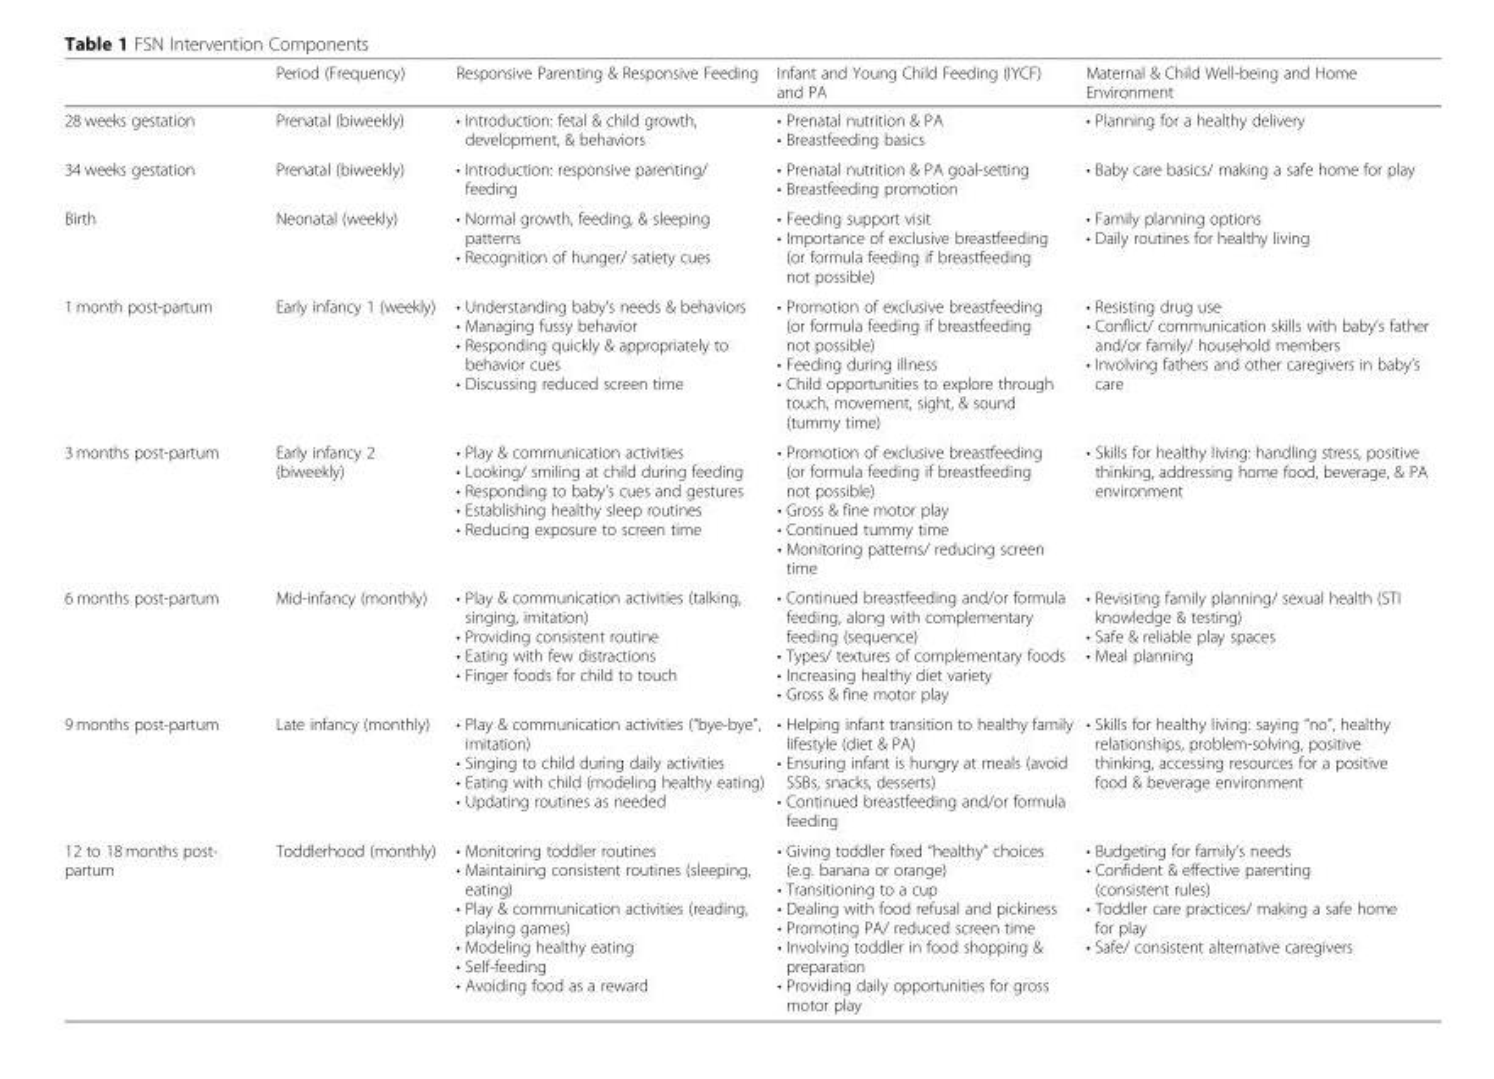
<table><thead><tr><td></td><td>Period (Frequency)</td><td>Responsive Parenting &amp; Responsive Feeding</td><td>Infant and Young Child Feeding (IYCF) and PA</td><td>Maternal &amp; Child Well-being and Home Environment</td></tr></thead><tbody><tr><td>28 weeks gestation</td><td>Prenatal (biweekly)</td><td>• Introduction: fetal &amp; child growth, development, &amp; behaviors</td><td>• Prenatal nutrition &amp; PA • Breastfeeding basics</td><td>• Planning for a healthy delivery</td></tr><tr><td>34 weeks gestation</td><td>Prenatal (biweekly)</td><td>• Introduction: responsive parenting/ feeding</td><td>• Prenatal nutrition &amp; PA goal-setting • Breastfeeding promotion</td><td>• Baby care basics/ making a safe home for play</td></tr><tr><td>Birth</td><td>Neonatal (weekly)</td><td>• Normal growth, feeding, &amp; sleeping patterns • Recognition of hunger/ satiety cues</td><td>• Feeding support visit • Importance of exclusive breastfeeding (or formula feeding if breastfeeding not possible)</td><td>• Family planning options • Daily routines for healthy living</td></tr><tr><td>1 month post-partum</td><td>Early infancy 1 (weekly)</td><td>• Understanding baby’s needs &amp; behaviors • Managing fussy behavior • Responding quickly &amp; appropriately to behavior cues • Discussing reduced screen time</td><td>• Promotion of exclusive breastfeeding (or formula feeding if breastfeeding not possible) • Feeding during illness • Child opportunities to explore through touch, movement, sight, &amp; sound (tummy time)</td><td>• Resisting drug use • Conflict/ communication skills with baby’s father and/or family/ household members • Involving fathers and other caregivers in baby’s care</td></tr><tr><td>3 months post-partum</td><td>Early infancy 2 (biweekly)</td><td>• Play &amp; communication activities • Looking/ smiling at child during feeding • Responding to baby’s cues and gestures • Establishing healthy sleep routines • Reducing exposure to screen time</td><td>• Promotion of exclusive breastfeeding (or formula feeding if breastfeeding not possible) • Gross &amp; fine motor play • Continued tummy time • Monitoring patterns/ reducing screen time</td><td>• Skills for healthy living: handling stress, positive thinking, addressing home food, beverage, &amp; PA environment</td></tr><tr><td>6 months post-partum</td><td>Mid-infancy (monthly)</td><td>• Play &amp; communication activities (talking, singing, imitation) • Providing consistent routine • Eating with few distractions • Finger foods for child to touch</td><td>• Continued breastfeeding and/or formula feeding, along with complementary feeding (sequence) • Types/ textures of complementary foods • Increasing healthy diet variety • Gross &amp; fine motor play</td><td>• Revisiting family planning/ sexual health (STI knowledge &amp; testing) • Safe &amp; reliable play spaces • Meal planning</td></tr><tr><td>9 months post-partum</td><td>Late infancy (monthly)</td><td>• Play &amp; communication activities (“bye-bye”, imitation) • Singing to child during daily activities • Eating with child (modeling healthy eating) • Updating routines as needed</td><td>• Helping infant transition to healthy family lifestyle (diet &amp; PA) • Ensuring infant is hungry at meals (avoid SSBs, snacks, desserts) • Continued breastfeeding and/or formula feeding</td><td>• Skills for healthy living: saying “no”, healthy relationships, problem-solving, positive thinking, accessing resources for a positive food &amp; beverage environment</td></tr><tr><td>12 to 18 months post- partum</td><td>Toddlerhood (monthly)</td><td>• Monitoring toddler routines • Maintaining consistent routines (sleeping, eating) • Play &amp; communication activities (reading, playing games) • Modeling healthy eating • Self-feeding • Avoiding food as a reward</td><td>• Giving toddler fixed “healthy” choices (e.g. banana or orange) • Transitioning to a cup • Dealing with food refusal and pickiness • Promoting PA/ reduced screen time • Involving toddler in food shopping &amp; preparation • Providing daily opportunities for gross motor play</td><td>• Budgeting for family’s needs • Confident &amp; effective parenting (consistent rules) • Toddler care practices/ making a safe home for play • Safe/ consistent alternative caregivers</td></tr></tbody></table>